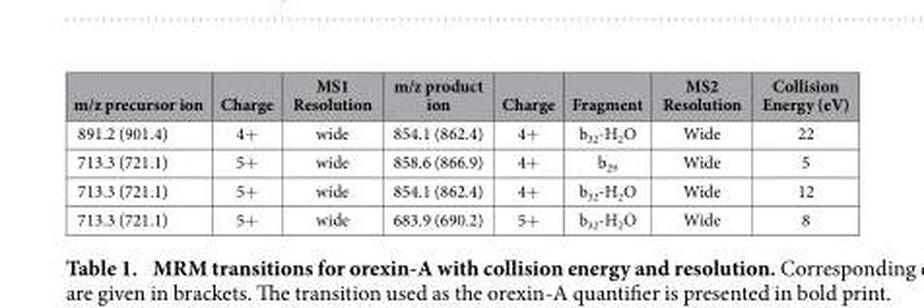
<table><thead><tr><td>m/z precursor ion</td><td>Charge</td><td>MS1 Resolution</td><td>m/z product ion</td><td>Charge</td><td>Fragment</td><td>MS2 Resolution</td><td>Collision Energy (eV)</td></tr></thead><tbody><tr><td>891.2 (901.4)</td><td>4+</td><td>wide</td><td>854.1 (862.4)</td><td>4+</td><td>b<sub>32</sub>-H<sub>2</sub>O</td><td>Wide</td><td>22</td></tr><tr><td>713.3 (721.1)</td><td>5+</td><td>wide</td><td>858.6 (866.9)</td><td>4+</td><td>b<sub>29</sub></td><td>Wide</td><td>5</td></tr><tr><td>713.3 (721.1)</td><td>5+</td><td>wide</td><td>854.1 (862.4)</td><td>4+</td><td>b<sub>32</sub>-H<sub>2</sub>O</td><td>Wide</td><td>12</td></tr><tr><td>713.3 (721.1)</td><td>5+</td><td>wide</td><td>683.9 (690.2)</td><td>5+</td><td>b<sub>32</sub>-H<sub>2</sub>O</td><td>Wide</td><td>8</td></tr></tbody></table>